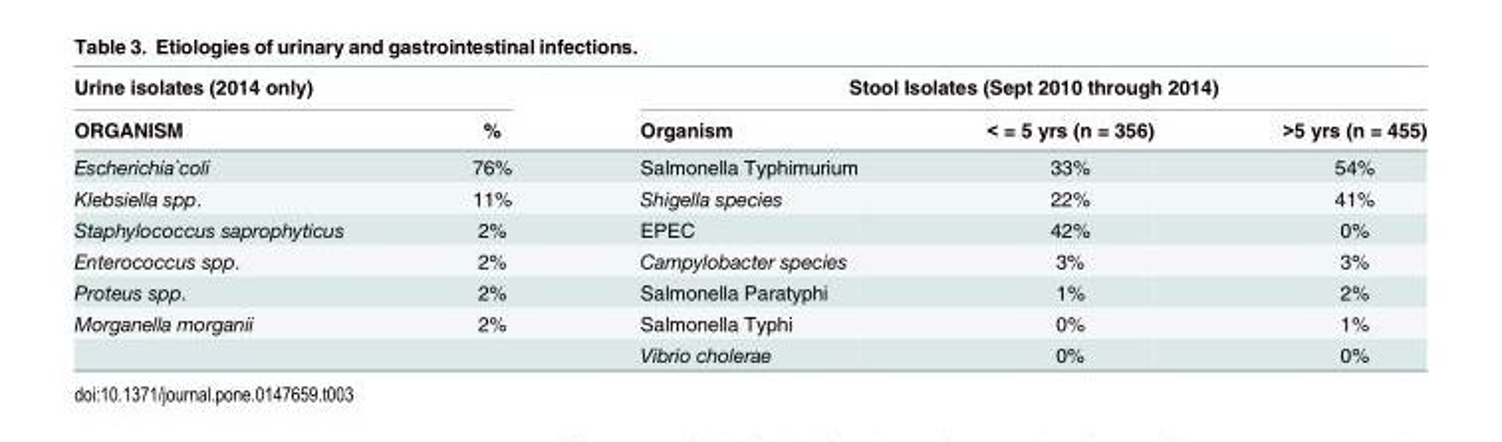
<table><thead><tr><td colspan="2">Urine isolates (2014 only)</td><td colspan="3">Stool Isolates (Sept 2010 through 2014)</td></tr><tr><td>ORGANISM</td><td>%</td><td>Organism</td><td>&lt; = 5 yrs (n = 356)</td><td>&gt;5 yrs (n = 455)</td></tr></thead><tbody><tr><td>Escherichia`coli</td><td>76%</td><td>Salmonella Typhimurium</td><td>33%</td><td>54%</td></tr><tr><td>Klebsiella spp.</td><td>11%</td><td>Shigella species</td><td>22%</td><td>41%</td></tr><tr><td>Staphylococcus saprophyticus</td><td>2%</td><td>EPEC</td><td>42%</td><td>0%</td></tr><tr><td>Enterococcus spp.</td><td>2%</td><td>Campylobacter species</td><td>3%</td><td>3%</td></tr><tr><td>Proteus spp.</td><td>2%</td><td>Salmonella Paratyphi</td><td>1%</td><td>2%</td></tr><tr><td rowspan="2">Morganella morganii</td><td>2%</td><td>Salmonella Typhi</td><td>0%</td><td>1%</td></tr><tr><td></td><td>Vibrio cholerae</td><td>0%</td><td>0%</td></tr></tbody></table>